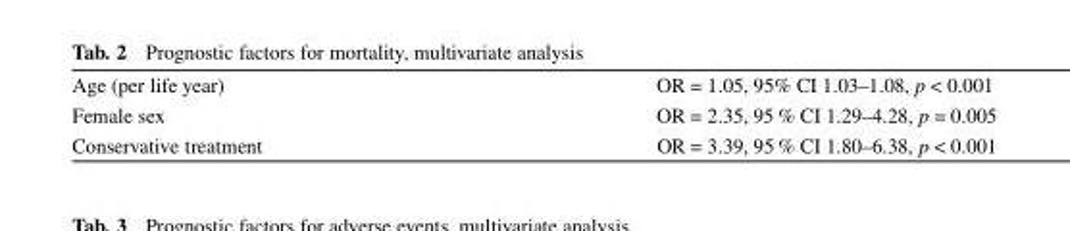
<table><tbody><tr><td>Age (per life year)</td><td>OR = 1.05, 95% CI 1.03–1.08, p &lt; 0.001</td></tr><tr><td>Female sex</td><td>OR = 2.35, 95 % CI 1.29–4.28, p = 0.005</td></tr><tr><td>Conservative treatment</td><td>OR = 3.39, 95 % CI 1.80–6.38, p &lt; 0.001</td></tr></tbody></table>